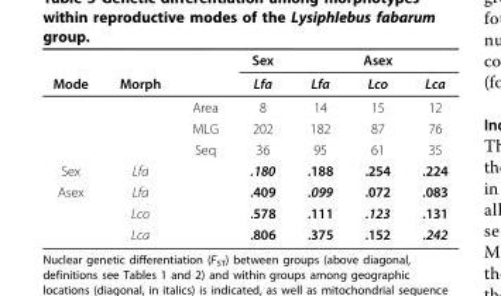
<table><thead><tr><td rowspan="2">Mode</td><td rowspan="2">Morph</td><td rowspan="2"></td><td rowspan="2">Sex Lfa</td><td colspan="3">Asex</td></tr><tr><td>Lfa</td><td>Lco</td><td>Lca</td></tr></thead><tbody><tr><td></td><td></td><td>Area</td><td>8</td><td>14</td><td>15</td><td>12</td></tr><tr><td></td><td></td><td>MLG</td><td>202</td><td>182</td><td>87</td><td>76</td></tr><tr><td></td><td></td><td>Seq</td><td>36</td><td>95</td><td>61</td><td>35</td></tr><tr><td>Sex</td><td>Lfa</td><td></td><td>.180</td><td>.188</td><td>.254</td><td>.224</td></tr><tr><td rowspan="3">Asex</td><td>Lfa</td><td></td><td>.409</td><td>.099</td><td>.072</td><td>.083</td></tr><tr><td>Lco</td><td></td><td>.578</td><td>.111</td><td>.123</td><td>.131</td></tr><tr><td>Lca</td><td></td><td>.806</td><td>.375</td><td>.152</td><td>.242</td></tr></tbody></table>